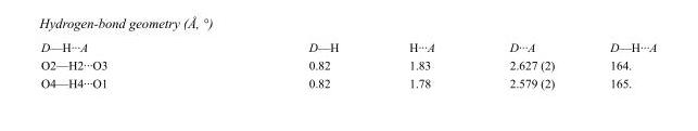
<table><tbody><tr><td>D—H···A</td><td>D—H</td><td>H···A</td><td>D···A</td><td>D—H···A</td></tr><tr><td>O2—H2···O3</td><td>0.82</td><td>1.83</td><td>2.627 (2)</td><td>164.</td></tr><tr><td>O4—H4···O1</td><td>0.82</td><td>1.78</td><td>2.579 (2)</td><td>165.</td></tr></tbody></table>